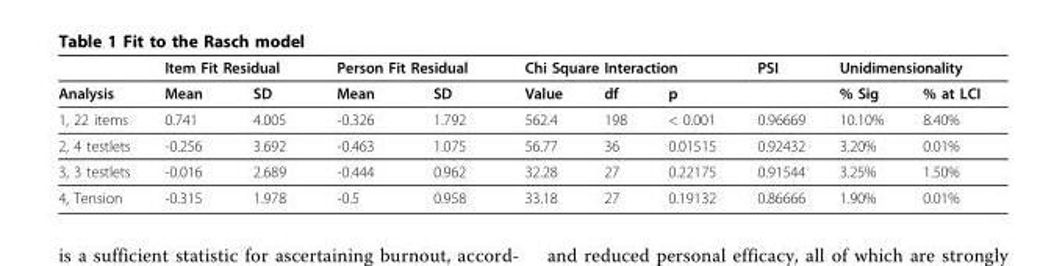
<table><thead><tr><td rowspan="2">Analysis</td><td colspan="2">Item Fit Residual</td><td colspan="2">Person Fit Residual</td><td colspan="3">Chi Square Interaction</td><td rowspan="2">PSI</td><td colspan="2">Unidimensionality</td></tr><tr><td>Mean</td><td>SD</td><td>Mean</td><td>SD</td><td>Value</td><td>df</td><td>p</td><td>% Sig</td><td>% at LCI</td></tr></thead><tbody><tr><td>1, 22 items</td><td>0.741</td><td>4.005</td><td>-0.326</td><td>1.792</td><td>562.4</td><td>198</td><td>&lt; 0.001</td><td>0.96669</td><td>10.10%</td><td>8.40%</td></tr><tr><td>2, 4 testlets</td><td>-0.256</td><td>3.692</td><td>-0.463</td><td>1.075</td><td>56.77</td><td>36</td><td>0.01515</td><td>0.92432</td><td>3.20%</td><td>0.01%</td></tr><tr><td>3, 3 testlets</td><td>-0.016</td><td>2.689</td><td>-0.444</td><td>0.962</td><td>32.28</td><td>27</td><td>0.22175</td><td>0.91544</td><td>3.25%</td><td>1.50%</td></tr><tr><td>4, Tension</td><td>-0.315</td><td>1.978</td><td>-0.5</td><td>0.958</td><td>33.18</td><td>27</td><td>0.19132</td><td>0.86666</td><td>1.90%</td><td>0.01%</td></tr></tbody></table>